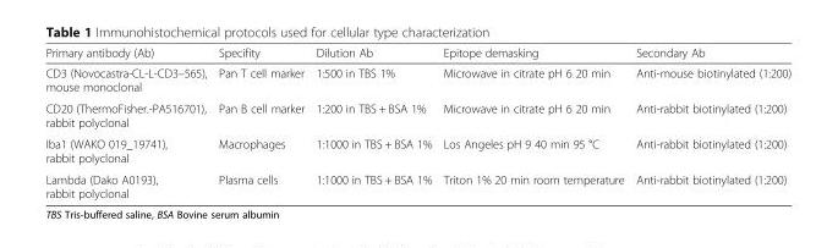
<table><thead><tr><td>Primary antibody (Ab)</td><td>Specifity</td><td>Dilution Ab</td><td>Epitope demasking</td><td>Secondary Ab</td></tr></thead><tbody><tr><td>CD3 (Novocastra-CL-L-CD3–565), mouse monoclonal</td><td>Pan T cell marker</td><td>1:500 in TBS 1%</td><td>Microwave in citrate pH 6 20 min</td><td>Anti-mouse biotinylated (1:200)</td></tr><tr><td>CD20 (ThermoFisher.-PA516701), rabbit polyclonal</td><td>Pan B cell marker</td><td>1:200 in TBS + BSA 1%</td><td>Microwave in citrate pH 6 20 min</td><td>Anti-rabbit biotinylated (1:200)</td></tr><tr><td>Iba1 (WAKO 019_19741), rabbit polyclonal</td><td>Macrophages</td><td>1:1000 in TBS + BSA 1%</td><td>Los Angeles pH 9 40 min 95 °C</td><td>Anti-rabbit biotinylated (1:200)</td></tr><tr><td>Lambda (Dako A0193), rabbit polyclonal</td><td>Plasma cells</td><td>1:1000 in TBS + BSA 1%</td><td>Triton 1% 20 min room temperature</td><td>Anti-rabbit biotinylated (1:200)</td></tr></tbody></table>